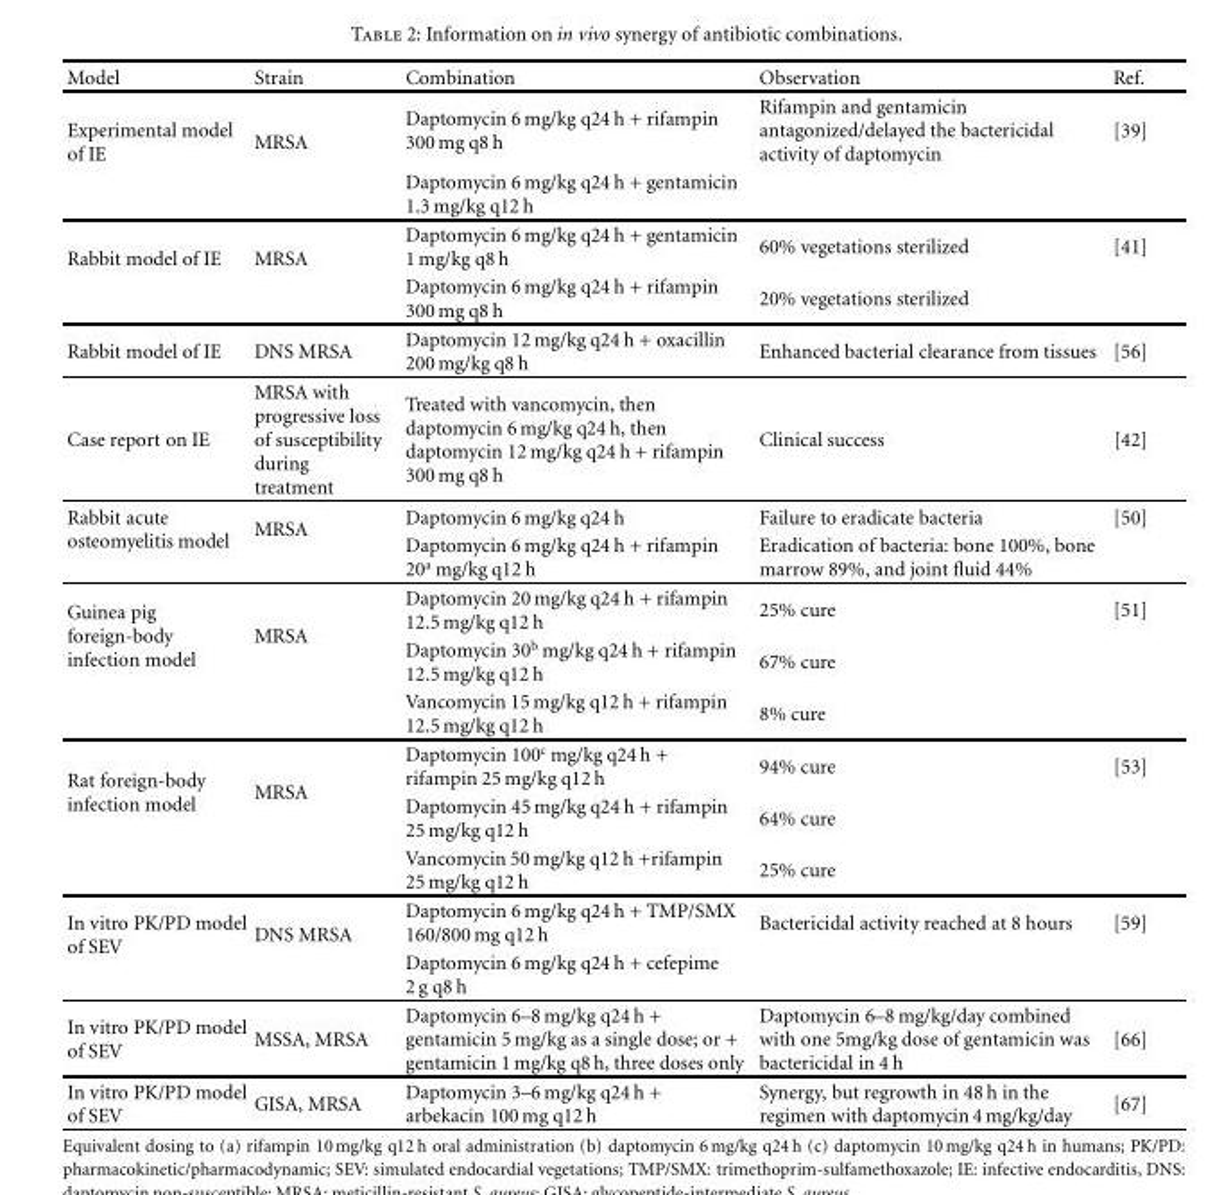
<table><thead><tr><td>Model</td><td>Strain</td><td>Combination</td><td>Observation</td><td>Ref.</td></tr></thead><tbody><tr><td rowspan="2">Experimental model of IE</td><td rowspan="2">MRSA</td><td>Daptomycin 6 mg/kg q24 h + rifampin 300 mg q8 h</td><td>Rifampin and gentamicin antagonized/delayed the bactericidal activity of daptomycin</td><td>[39]</td></tr><tr><td>Daptomycin 6 mg/kg q24 h + gentamicin 1.3 mg/kg q12 h</td><td></td><td></td></tr><tr><td rowspan="2">Rabbit model of IE</td><td rowspan="2">MRSA</td><td>Daptomycin 6 mg/kg q24 h + gentamicin 1 mg/kg q8 h</td><td>60% vegetations sterilized</td><td>[41]</td></tr><tr><td>Daptomycin 6 mg/kg q24 h + rifampin 300 mg q8 h</td><td>20% vegetations sterilized</td><td></td></tr><tr><td>Rabbit model of IE</td><td>DNS MRSA</td><td>Daptomycin 12 mg/kg q24 h + oxacillin 200 mg/kg q8 h</td><td>Enhanced bacterial clearance from tissues</td><td>[56]</td></tr><tr><td>Case report on IE</td><td>MRSA with progressive loss of susceptibility during treatment</td><td>Treated with vancomycin, then daptomycin 6 mg/kg q24 h, then daptomycin 12 mg/kg q24 h + rifampin 300 mg q8 h</td><td>Clinical success</td><td>[42]</td></tr><tr><td rowspan="2">Rabbit acute osteomyelitis model</td><td rowspan="2">MRSA</td><td>Daptomycin 6 mg/kg q24 h</td><td>Failure to eradicate bacteria</td><td>[50]</td></tr><tr><td>Daptomycin 6 mg/kg q24 h + rifampin 20<sup>a</sup> mg/kg q12 h</td><td>Eradication of bacteria: bone 100%, bone marrow 89%, and joint fluid 44%</td><td></td></tr><tr><td rowspan="3">Guinea pig foreign-body infection model</td><td rowspan="3">MRSA</td><td>Daptomycin 20 mg/kg q24 h + rifampin 12.5 mg/kg q12 h</td><td>25% cure</td><td>[51]</td></tr><tr><td>Daptomycin 30<sup>b</sup> mg/kg q24 h + rifampin 12.5 mg/kg q12 h</td><td>67% cure</td><td></td></tr><tr><td>Vancomycin 15 mg/kg q12 h + rifampin 12.5 mg/kg q12 h</td><td>8% cure</td><td></td></tr><tr><td rowspan="3">Rat foreign-body infection model</td><td rowspan="3">MRSA</td><td>Daptomycin 100<sup>c</sup> mg/kg q24 h + rifampin 25 mg/kg q12 h</td><td>94% cure</td><td>[53]</td></tr><tr><td>Daptomycin 45 mg/kg q24 h + rifampin 25 mg/kg q12 h</td><td>64% cure</td><td></td></tr><tr><td>Vancomycin 50 mg/kg q12 h +rifampin 25 mg/kg q12 h</td><td>25% cure</td><td></td></tr><tr><td rowspan="2">In vitro PK/PD model of SEV</td><td rowspan="2">DNS MRSA</td><td>Daptomycin 6 mg/kg q24 h + TMP/SMX 160/800mg q12 h</td><td>Bactericidal activity reached at 8 hours</td><td>[59]</td></tr><tr><td>Daptomycin 6 mg/kg q24 h + cefepime 2 g q8 h</td><td></td><td></td></tr><tr><td>In vitro PK/PD model of SEV</td><td>MSSA, MRSA</td><td>Daptomycin 6–8 mg/kg q24 h + gentamicin 5 mg/kg as a single dose; or + gentamicin 1 mg/kg q8 h, three doses only</td><td>Daptomycin 6–8 mg/kg/day combined with one 5mg/kg dose of gentamicin was bactericidal in 4 h</td><td>[66]</td></tr><tr><td>In vitro PK/PD model of SEV</td><td>GISA, MRSA</td><td>Daptomycin 3–6 mg/kg q24 h + arbekacin 100 mg q12 h</td><td>Synergy, but regrowth in 48 h in the regimen with daptomycin 4 mg/kg/day</td><td>[67]</td></tr></tbody></table>